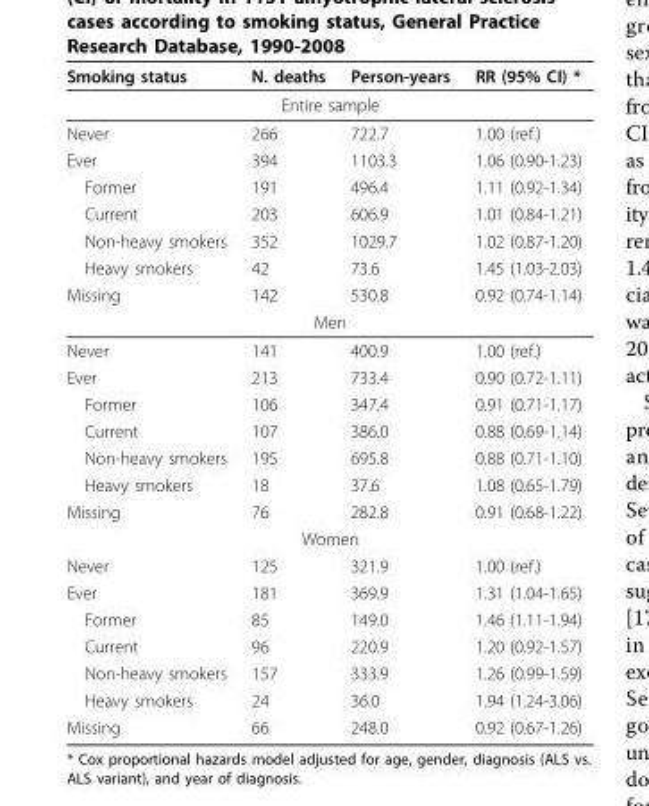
<table><thead><tr><td>Smoking status</td><td>N. deaths</td><td>Person-years</td><td>RR (95% CI) *</td></tr></thead><tbody><tr><td colspan="4">Entire sample</td></tr><tr><td>Never</td><td>266</td><td>722.7</td><td>1.00 (ref.)</td></tr><tr><td>Ever</td><td>394</td><td>1103.3</td><td>1.06 (0.90-1.23)</td></tr><tr><td>Former</td><td>191</td><td>496.4</td><td>1.11 (0.92-1.34)</td></tr><tr><td>Current</td><td>203</td><td>606.9</td><td>1.01 (0.84-1.21)</td></tr><tr><td>Non-heavy smokers</td><td>352</td><td>1029.7</td><td>1.02 (0.87-1.20)</td></tr><tr><td>Heavy smokers</td><td>42</td><td>73.6</td><td>1.45 (1.03-2.03)</td></tr><tr><td>Missing</td><td>142</td><td>530.8</td><td>0.92 (0.74-1.14)</td></tr><tr><td colspan="4">Men</td></tr><tr><td>Never</td><td>141</td><td>400.9</td><td>1.00 (ref.)</td></tr><tr><td>Ever</td><td>213</td><td>733.4</td><td>0.90 (0.72-1.11)</td></tr><tr><td>Former</td><td>106</td><td>347.4</td><td>0.91 (0.71-1.17)</td></tr><tr><td>Current</td><td>107</td><td>386.0</td><td>0.88 (0.69-1.14)</td></tr><tr><td>Non-heavy smokers</td><td>195</td><td>695.8</td><td>0.88 (0.71-1.10)</td></tr><tr><td>Heavy smokers</td><td>18</td><td>37.6</td><td>1.08 (0.65-1.79)</td></tr><tr><td>Missing</td><td>76</td><td>282.8</td><td>0.91 (0.68-1.22)</td></tr><tr><td colspan="4">Women</td></tr><tr><td>Never</td><td>125</td><td>321.9</td><td>1.00 (ref.)</td></tr><tr><td>Ever</td><td>181</td><td>369.9</td><td>1.31 (1.04-1.65)</td></tr><tr><td>Former</td><td>85</td><td>149.0</td><td>1.46 (1.11-1.94)</td></tr><tr><td>Current</td><td>96</td><td>220.9</td><td>1.20 (0.92-1.57)</td></tr><tr><td>Non-heavy smokers</td><td>157</td><td>333.9</td><td>1.26 (0.99-1.59)</td></tr><tr><td>Heavy smokers</td><td>24</td><td>36.0</td><td>1.94 (1.24-3.06)</td></tr><tr><td>Missing</td><td>66</td><td>248.0</td><td>0.92 (0.67-1.26)</td></tr></tbody></table>